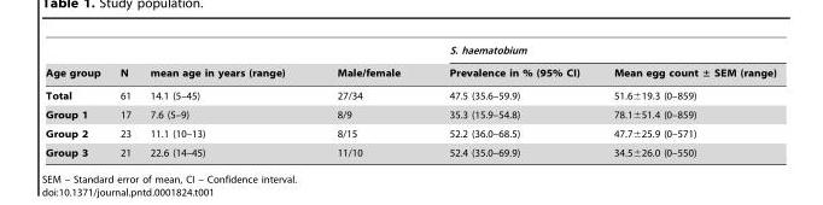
<table><thead><tr><td rowspan="2">Age group</td><td rowspan="2">N</td><td rowspan="2">mean age in years (range)</td><td rowspan="2">Male/female</td><td colspan="2">S. haematobium</td></tr><tr><td>Prevalence in % (95% CI)</td><td>Mean egg count ± SEM (range)</td></tr></thead><tbody><tr><td>Total</td><td>61</td><td>14.1 (5–45)</td><td>27/34</td><td>47.5 (35.6–59.9)</td><td>51.6±19.3 (0–859)</td></tr><tr><td>Group 1</td><td>17</td><td>7.6 (5–9)</td><td>8/9</td><td>35.3 (15.9–54.8)</td><td>78.1±51.4 (0–859)</td></tr><tr><td>Group 2</td><td>23</td><td>11.1 (10–13)</td><td>8/15</td><td>52.2 (36.0–68.5)</td><td>47.7±25.9 (0–571)</td></tr><tr><td>Group 3</td><td>21</td><td>22.6 (14–45)</td><td>11/10</td><td>52.4 (35.0–69.9)</td><td>34.5±26.0 (0–550)</td></tr></tbody></table>